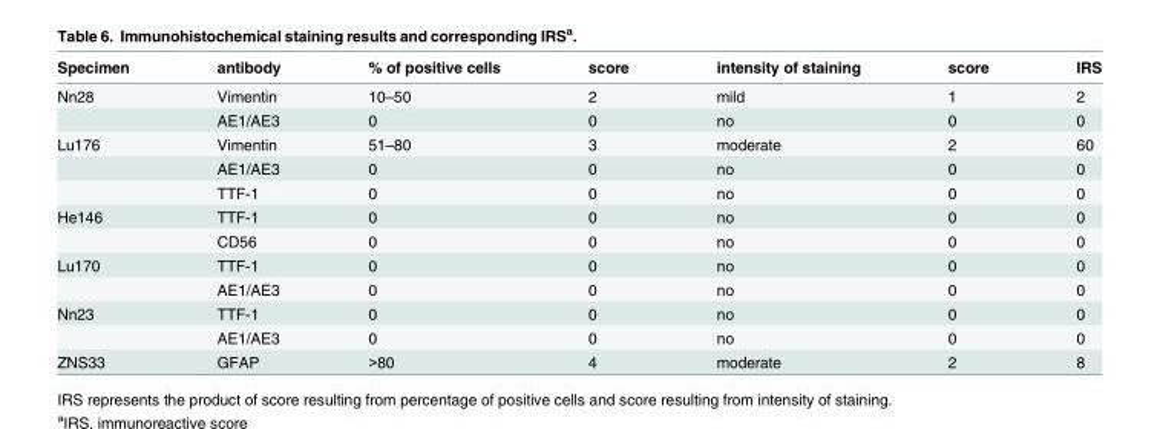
<table><thead><tr><td>Specimen</td><td>antibody</td><td>% of positive cells</td><td>score</td><td>intensity of staining</td><td>score</td><td>IRS</td></tr></thead><tbody><tr><td rowspan="2">Nn28</td><td>Vimentin</td><td>10–50</td><td>2</td><td>mild</td><td>1</td><td>2</td></tr><tr><td>AE1/AE3</td><td>0</td><td>0</td><td>no</td><td>0</td><td>0</td></tr><tr><td rowspan="3">Lu176</td><td>Vimentin</td><td>51–80</td><td>3</td><td>moderate</td><td>2</td><td>60</td></tr><tr><td>AE1/AE3</td><td>0</td><td>0</td><td>no</td><td>0</td><td>0</td></tr><tr><td>TTF-1</td><td>0</td><td>0</td><td>no</td><td>0</td><td>0</td></tr><tr><td rowspan="2">He146</td><td>TTF-1</td><td>0</td><td>0</td><td>no</td><td>0</td><td>0</td></tr><tr><td>CD56</td><td>0</td><td>0</td><td>no</td><td>0</td><td>0</td></tr><tr><td rowspan="2">Lu170</td><td>TTF-1</td><td>0</td><td>0</td><td>no</td><td>0</td><td>0</td></tr><tr><td>AE1/AE3</td><td>0</td><td>0</td><td>no</td><td>0</td><td>0</td></tr><tr><td rowspan="2">Nn23</td><td>TTF-1</td><td>0</td><td>0</td><td>no</td><td>0</td><td>0</td></tr><tr><td>AE1/AE3</td><td>0</td><td>0</td><td>no</td><td>0</td><td>0</td></tr><tr><td>ZNS33</td><td>GFAP</td><td>&gt;80</td><td>4</td><td>moderate</td><td>2</td><td>8</td></tr></tbody></table>